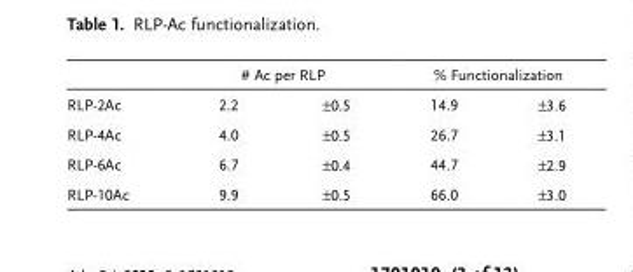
<table><thead><tr><td rowspan="2">RLP-2Ac</td><td colspan="2"># Ac per RLP</td><td colspan="2">% Functionalization</td></tr><tr><td>2.2</td><td>±0.5</td><td>14.9</td><td>±3.6</td></tr></thead><tbody><tr><td>RLP-4Ac</td><td>4.0</td><td>±0.5</td><td>26.7</td><td>±3.1</td></tr><tr><td>RLP-6Ac</td><td>6.7</td><td>±0.4</td><td>44.7</td><td>±2.9</td></tr><tr><td>RLP-10Ac</td><td>9.9</td><td>±0.5</td><td>66.0</td><td>±3.0</td></tr></tbody></table>